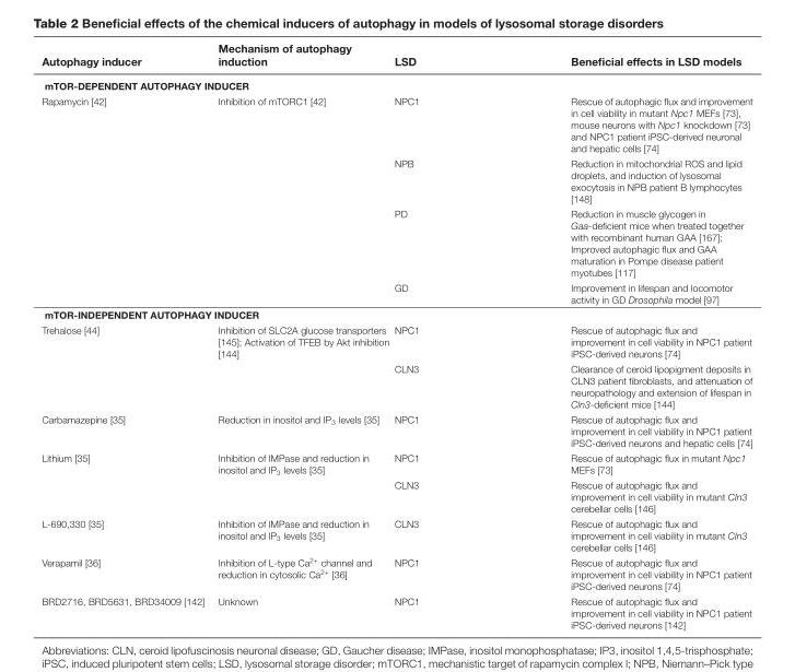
<table><thead><tr><td>Autophagy inducer</td><td>Mechanism of autophagy induction</td><td>LSD</td><td>Beneficial effects in LSD models</td></tr></thead><tbody><tr><td colspan="4">mTOR-DEPENDENT AUTOPHAGY INDUCER</td></tr><tr><td rowspan="4">Rapamycin [42]</td><td rowspan="4">Inhibition of mTORC1 [42]</td><td>NPC1</td><td>Rescue of autophagic flux and improvement in cell viability in mutant Npc1 MEFs [73], mouse neurons with Npc1 knockdown [73] and NPC1 patient iPSC-derived neuronal and hepatic cells [74]</td></tr><tr><td>NPB</td><td>Reduction in mitochondrial ROS and lipid droplets, and induction of lysosomal exocytosis in NPB patient B lymphocytes [148]</td></tr><tr><td>PD</td><td>Reduction in muscle glycogen in Gaa-deficient mice when treated together with recombinant human GAA [167]; Improved autophagic flux and GAA maturation in Pompe disease patient myotubes [117]</td></tr><tr><td>GD</td><td>Improvement in lifespan and locomotor activity in GD Drosophila model [97]</td></tr><tr><td colspan="4">mTOR-INDEPENDENT AUTOPHAGY INDUCER</td></tr><tr><td rowspan="2">Trehalose [44]</td><td rowspan="2">Inhibition of SLC2A glucose transporters [145]; Activation of TFEB by Akt inhibition [144]</td><td>NPC1</td><td>Rescue of autophagic flux and improvement in cell viability in NPC1 patient iPSC-derived neurons [74]</td></tr><tr><td>CLN3</td><td>Clearance of ceroid lipopigment deposits in CLN3 patient fibroblasts, and attenuation of neuropathology and extension of lifespan in Cln3-deficient mice [144]</td></tr><tr><td>Carbamazepine [35]</td><td>Reduction in inositol and IP<sub>3</sub> levels [35]</td><td>NPC1</td><td>Rescue of autophagic flux and improvement in cell viability in NPC1 patient iPSC-derived neurons and hepatic cells [74]</td></tr><tr><td rowspan="2">Lithium [35]</td><td rowspan="2">Inhibition of IMPase and reduction in inositol and IP<sub>3</sub> levels [35]</td><td>NPC1</td><td>Rescue of autophagic flux in mutant Npc1 MEFs [73]</td></tr><tr><td>CLN3</td><td>Rescue of autophagic flux and improvement in cell viability in mutant Cln3 cerebellar cells [146]</td></tr><tr><td>L-690,330 [35]</td><td>Inhibition of IMPase and reduction in inositol and IP<sub>3</sub> levels [35]</td><td>CLN3</td><td>Rescue of autophagic flux and improvement in cell viability in mutant Cln3 cerebellar cells [146]</td></tr><tr><td>Verapamil [36]</td><td>Inhibition of L-type Ca<sup>2+</sup> channel and reduction in cytosolic Ca<sup>2+</sup> [36]</td><td>NPC1</td><td>Rescue of autophagic flux and improvement in cell viability in NPC1 patient iPSC-derived neurons [74]</td></tr><tr><td>BRD2716, BRD5631, BRD34009 [142]</td><td>Unknown</td><td>NPC1</td><td>Rescue of autophagic flux and improvement in cell viability in NPC1 patient iPSC-derived neurons [142]</td></tr></tbody></table>